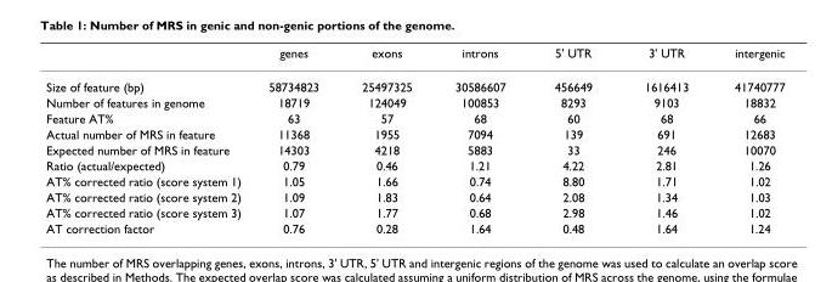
<table><thead><tr><td></td><td>genes</td><td>exons</td><td>introns</td><td>5&#x27; UTR</td><td>3&#x27; UTR</td><td>intergenic</td></tr></thead><tbody><tr><td>Size of feature (bp)</td><td>58734823</td><td>25497325</td><td>30586607</td><td>456649</td><td>1616413</td><td>41740777</td></tr><tr><td>Number of features in genome</td><td>18719</td><td>124049</td><td>100853</td><td>8293</td><td>9103</td><td>18832</td></tr><tr><td>Feature AT%</td><td>63</td><td>57</td><td>68</td><td>60</td><td>68</td><td>66</td></tr><tr><td>Actual number of MRS in feature</td><td>11368</td><td>1955</td><td>7094</td><td>139</td><td>691</td><td>12683</td></tr><tr><td>Expected number of MRS in feature</td><td>14303</td><td>4218</td><td>5883</td><td>33</td><td>246</td><td>10070</td></tr><tr><td>Ratio (actual/expected)</td><td>0.79</td><td>0.46</td><td>1.21</td><td>4.22</td><td>2.81</td><td>1.26</td></tr><tr><td>AT% corrected ratio (score system 1)</td><td>1.05</td><td>1.66</td><td>0.74</td><td>8.80</td><td>1.71</td><td>1.02</td></tr><tr><td>AT% corrected ratio (score system 2)</td><td>1.09</td><td>1.83</td><td>0.64</td><td>2.08</td><td>1.34</td><td>1.03</td></tr><tr><td>AT% corrected ratio (score system 3)</td><td>1.07</td><td>1.77</td><td>0.68</td><td>2.98</td><td>1.46</td><td>1.02</td></tr><tr><td>AT correction factor</td><td>0.76</td><td>0.28</td><td>1.64</td><td>0.48</td><td>1.64</td><td>1.24</td></tr></tbody></table>